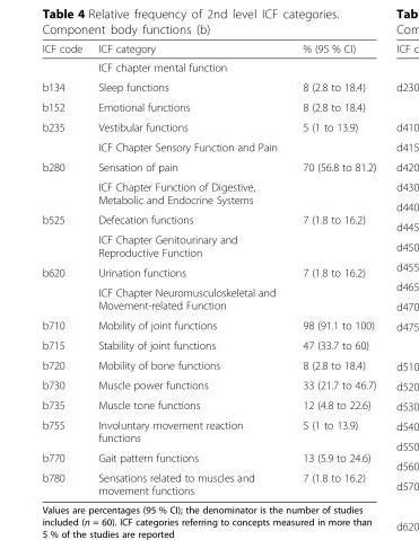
<table><thead><tr><td>ICF code</td><td>ICF category</td><td>% (95 % CI)</td></tr></thead><tbody><tr><td></td><td>ICF chapter mental function</td><td></td></tr><tr><td>b134</td><td>Sleep functions</td><td>8 (2.8 to 18.4)</td></tr><tr><td>b152</td><td>Emotional functions</td><td>8 (2.8 to 18.4)</td></tr><tr><td rowspan="2">b235</td><td>Vestibular functions</td><td>5 (1 to 13.9)</td></tr><tr><td>ICF Chapter Sensory Function and Pain</td><td></td></tr><tr><td rowspan="2">b280</td><td>Sensation of pain</td><td>70 (56.8 to 81.2)</td></tr><tr><td>ICF Chapter Function of Digestive, Metabolic and Endocrine Systems</td><td></td></tr><tr><td rowspan="2">b525</td><td>Defecation functions</td><td>7 (1.8 to 16.2)</td></tr><tr><td>ICF Chapter Genitourinary and Reproductive Function</td><td></td></tr><tr><td rowspan="2">b620</td><td>Urination functions</td><td>7 (1.8 to 16.2)</td></tr><tr><td>ICF Chapter Neuromusculoskeletal and Movement-related Function</td><td></td></tr><tr><td>b710</td><td>Mobility of joint functions</td><td>98 (91.1 to 100)</td></tr><tr><td>b715</td><td>Stability of joint functions</td><td>47 (33.7 to 60)</td></tr><tr><td>b720</td><td>Mobility of bone functions</td><td>8 (2.8 to 18.4)</td></tr><tr><td>b730</td><td>Muscle power functions</td><td>33 (21.7 to 46.7)</td></tr><tr><td>b735</td><td>Muscle tone functions</td><td>12 (4.8 to 22.6)</td></tr><tr><td>b755</td><td>Involuntary movement reaction functions</td><td>5 (1 to 13.9)</td></tr><tr><td>b770</td><td>Gait pattern functions</td><td>13 (5.9 to 24.6)</td></tr><tr><td>b780</td><td>Sensations related to muscles and movement functions</td><td>7 (1.8 to 16.2)</td></tr></tbody></table>